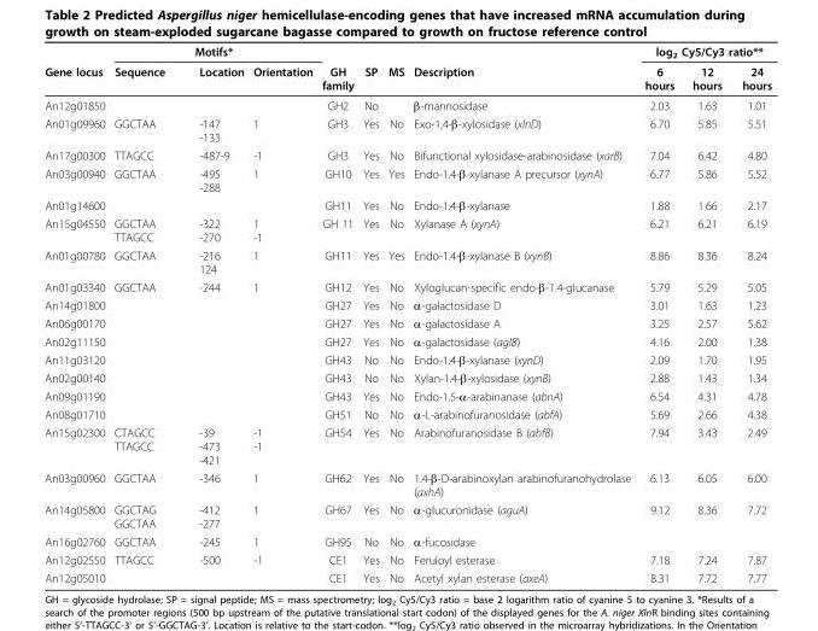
<table><thead><tr><td rowspan="2">Gene locus</td><td colspan="3">Motifs*</td><td rowspan="2">GH family</td><td rowspan="2">SP</td><td rowspan="2">MS</td><td rowspan="2">Description</td><td colspan="3">log<sub>2</sub> Cy5/Cy3 ratio**</td></tr><tr><td>Sequence</td><td>Location</td><td>Orientation</td><td>6 hours</td><td>12 hours</td><td>24 hours</td></tr></thead><tbody><tr><td>An12g01850</td><td></td><td></td><td></td><td>GH2</td><td>No</td><td></td><td>β-mannosidase</td><td>2.03</td><td>1.63</td><td>1.01</td></tr><tr><td>An01g09960</td><td>GGCTAA</td><td>-147 -133</td><td>1</td><td>GH3</td><td>Yes</td><td>No</td><td>Exo-1,4-β-xylosidase (xlnD)</td><td>6.70</td><td>5.85</td><td>5.51</td></tr><tr><td>An17g00300</td><td>TTAGCC</td><td>-487-9</td><td>-1</td><td>GH3</td><td>Yes</td><td>No</td><td>Bifunctional xylosidase-arabinosidase (xarB)</td><td>7.04</td><td>6.42</td><td>4.80</td></tr><tr><td>An03g00940</td><td>GGCTAA</td><td>-495 -288</td><td>1</td><td>GH10</td><td>Yes</td><td>Yes</td><td>Endo-1.4-β-xylanase A precursor (xynA)</td><td>6.77</td><td>5.86</td><td>5.52</td></tr><tr><td>An01g14600</td><td></td><td></td><td></td><td>GH11</td><td>Yes</td><td>No</td><td>Endo-1.4-β-xylanase</td><td>1.88</td><td>1.66</td><td>2.17</td></tr><tr><td>An15g04550</td><td>GGCTAA TTAGCC</td><td>-322 -270</td><td>1 -1</td><td>GH 11</td><td>Yes</td><td>No</td><td>Xylanase A (xynA)</td><td>6.21</td><td>6.21</td><td>6.19</td></tr><tr><td>An01g00780</td><td>GGCTAA</td><td>-216 124</td><td>1</td><td>GH11</td><td>Yes</td><td>Yes</td><td>Endo-1.4-β-xylanase B (xynB)</td><td>8.86</td><td>8.36</td><td>8.24</td></tr><tr><td>An01g03340</td><td>GGCTAA</td><td>-244</td><td>1</td><td>GH12</td><td>Yes</td><td>No</td><td>Xyloglucan-specific endo-β-1.4-glucanase</td><td>5.79</td><td>5.29</td><td>5.05</td></tr><tr><td>An14g01800</td><td></td><td></td><td></td><td>GH27</td><td>Yes</td><td>No</td><td>α-galactosidase D</td><td>3.01</td><td>1.63</td><td>1.23</td></tr><tr><td>An06g00170</td><td></td><td></td><td></td><td>GH27</td><td>Yes</td><td>No</td><td>α-galactosidase A</td><td>3.25</td><td>2.57</td><td>5.62</td></tr><tr><td>An02g11150</td><td></td><td></td><td></td><td>GH27</td><td>Yes</td><td>No</td><td>α-galactosidase (aglB)</td><td>4.16</td><td>2.00</td><td>1.38</td></tr><tr><td>An11g03120</td><td></td><td></td><td></td><td>GH43</td><td>No</td><td>No</td><td>Endo-1.4-β-xylanase (xynD)</td><td>2.09</td><td>1.70</td><td>1.95</td></tr><tr><td>An02g00140</td><td></td><td></td><td></td><td>GH43</td><td>No</td><td>No</td><td>Xylan-1.4-β-xylosidase (xynB)</td><td>2.88</td><td>1.43</td><td>1.34</td></tr><tr><td>An09g01190</td><td></td><td></td><td></td><td>GH43</td><td>Yes</td><td>No</td><td>Endo-1.5-α-arabinanase (abnA)</td><td>6.54</td><td>4.31</td><td>4.78</td></tr><tr><td>An08g01710</td><td></td><td></td><td></td><td>GH51</td><td>No</td><td>No</td><td>α-L-arabinofuranosidase (abfA)</td><td>5.69</td><td>2.66</td><td>4.38</td></tr><tr><td>An15g02300</td><td>CTAGCC TTAGCC</td><td>-39 -473 -421</td><td>-1 -1</td><td>GH54</td><td>Yes</td><td>No</td><td>Arabinofuranosidase B (abfB)</td><td>7.94</td><td>3.43</td><td>2.49</td></tr><tr><td>An03g00960</td><td>GGCTAA</td><td>-346</td><td>1</td><td>GH62</td><td>Yes</td><td>No</td><td>1.4-β-D-arabinoxylan arabinofuranohydrolase (axhA)</td><td>6.13</td><td>6.05</td><td>6.00</td></tr><tr><td>An14g05800</td><td>GGCTAG GGCTAA</td><td>-412 -277</td><td>1</td><td>GH67</td><td>Yes</td><td>No</td><td>α-glucuronidase (aguA)</td><td>9.12</td><td>8.36</td><td>7.72</td></tr><tr><td>An16g02760</td><td>GGCTAA</td><td>-245</td><td>1</td><td>GH95</td><td>No</td><td>No</td><td>α-fucosidase</td><td></td><td></td><td></td></tr><tr><td>An12g02550</td><td>TTAGCC</td><td>-500</td><td>-1</td><td>CE1</td><td>Yes</td><td>No</td><td>Feruloyl esterase</td><td>7.18</td><td>7.24</td><td>7.87</td></tr><tr><td>An12g05010</td><td></td><td></td><td></td><td>CE1</td><td>Yes</td><td>No</td><td>Acetyl xylan esterase (axeA)</td><td>8.31</td><td>7.72</td><td>7.77</td></tr></tbody></table>